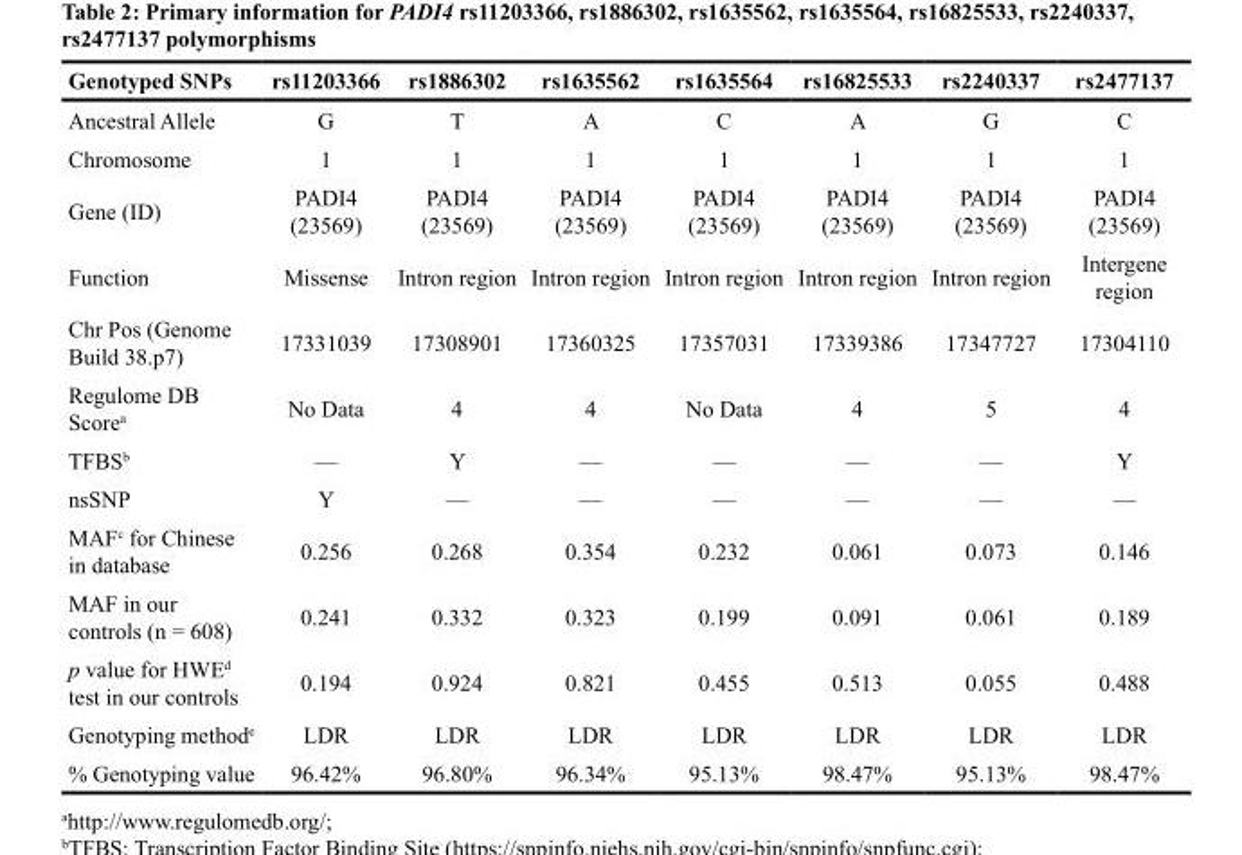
<table><thead><tr><td>Genotyped SNPs</td><td>rs11203366</td><td>rs1886302</td><td>rs1635562</td><td>rs1635564</td><td>rs16825533</td><td>rs2240337</td><td>rs2477137</td></tr></thead><tbody><tr><td>Ancestral Allele</td><td>G</td><td>T</td><td>A</td><td>C</td><td>A</td><td>G</td><td>C</td></tr><tr><td>Chromosome</td><td>1</td><td>1</td><td>1</td><td>1</td><td>1</td><td>1</td><td>1</td></tr><tr><td>Gene (ID)</td><td>PADI4 (23569)</td><td>PADI4 (23569)</td><td>PADI4 (23569)</td><td>PADI4 (23569)</td><td>PADI4 (23569)</td><td>PADI4 (23569)</td><td>PADI4 (23569)</td></tr><tr><td>Function</td><td>Missense</td><td>Intron region</td><td>Intron region</td><td>Intron region</td><td>Intron region</td><td>Intron region</td><td>Intergene region</td></tr><tr><td>Chr Pos (Genome Build 38.p7)</td><td>17331039</td><td>17308901</td><td>17360325</td><td>17357031</td><td>17339386</td><td>17347727</td><td>17304110</td></tr><tr><td>Regulome DB Score<sup>a</sup></td><td>No Data</td><td>4</td><td>4</td><td>No Data</td><td>4</td><td>5</td><td>4</td></tr><tr><td>TFBS<sup>b</sup></td><td>—</td><td>Y</td><td>—</td><td>—</td><td>—</td><td>—</td><td>Y</td></tr><tr><td>nsSNP</td><td>Y</td><td>—</td><td>—</td><td>—</td><td>—</td><td>—</td><td>—</td></tr><tr><td>MAF<sup>c</sup> for Chinese in database</td><td>0.256</td><td>0.268</td><td>0.354</td><td>0.232</td><td>0.061</td><td>0.073</td><td>0.146</td></tr><tr><td>MAF in our controls (n = 608)</td><td>0.241</td><td>0.332</td><td>0.323</td><td>0.199</td><td>0.091</td><td>0.061</td><td>0.189</td></tr><tr><td>p value for HWE<sup>d</sup> test in our controls</td><td>0.194</td><td>0.924</td><td>0.821</td><td>0.455</td><td>0.513</td><td>0.055</td><td>0.488</td></tr><tr><td>Genotyping method<sup>e</sup></td><td>LDR</td><td>LDR</td><td>LDR</td><td>LDR</td><td>LDR</td><td>LDR</td><td>LDR</td></tr><tr><td>% Genotyping value</td><td>96.42%</td><td>96.80%</td><td>96.34%</td><td>95.13%</td><td>98.47%</td><td>95.13%</td><td>98.47%</td></tr></tbody></table>